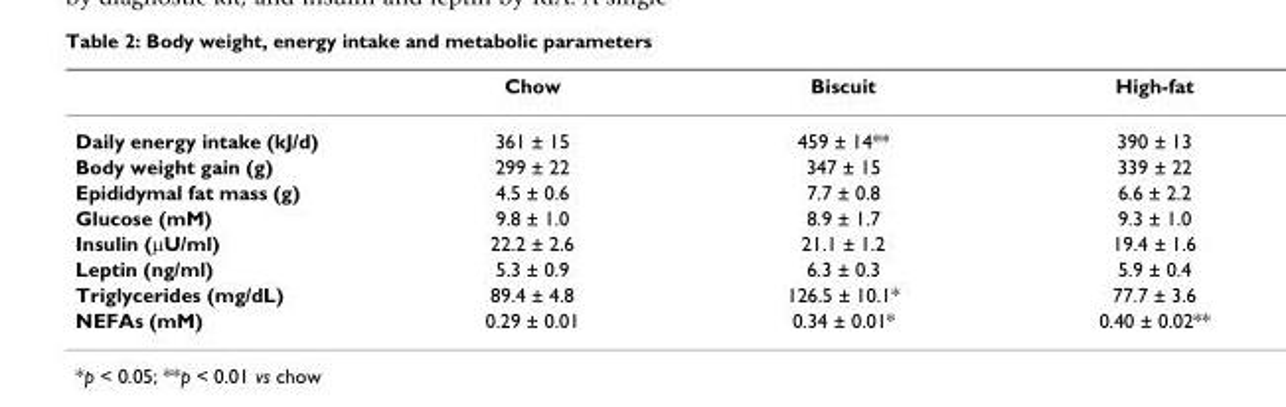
<table><thead><tr><td></td><td>Chow</td><td>Biscuit</td><td>High-fat</td></tr></thead><tbody><tr><td>Daily energy intake (kJ/d)</td><td>361 ± 15</td><td>459 ± 14**</td><td>390 ± 13</td></tr><tr><td>Body weight gain (g)</td><td>299 ± 22</td><td>347 ± 15</td><td>339 ± 22</td></tr><tr><td>Epididymal fat mass (g)</td><td>4.5 ± 0.6</td><td>7.7 ± 0.8</td><td>6.6 ± 2.2</td></tr><tr><td>Glucose (mM)</td><td>9.8 ± 1.0</td><td>8.9 ± 1.7</td><td>9.3 ± 1.0</td></tr><tr><td>Insulin (µU/ml)</td><td>22.2 ± 2.6</td><td>21.1 ± 1.2</td><td>19.4 ± 1.6</td></tr><tr><td>Leptin (ng/ml)</td><td>5.3 ± 0.9</td><td>6.3 ± 0.3</td><td>5.9 ± 0.4</td></tr><tr><td>Triglycerides (mg/dL)</td><td>89.4 ± 4.8</td><td>126.5 ± 10.1*</td><td>77.7 ± 3.6</td></tr><tr><td>NEFAs (mM)</td><td>0.29 ± 0.01</td><td>0.34 ± 0.01*</td><td>0.40 ± 0.02**</td></tr></tbody></table>